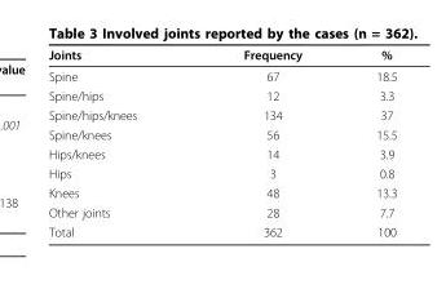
<table><thead><tr><td>Joints</td><td>Frequency</td><td>%</td></tr></thead><tbody><tr><td>Spine</td><td>67</td><td>18.5</td></tr><tr><td>Spine/hips</td><td>12</td><td>3.3</td></tr><tr><td>Spine/hips/knees</td><td>134</td><td>37</td></tr><tr><td>Spine/knees</td><td>56</td><td>15.5</td></tr><tr><td>Hips/knees</td><td>14</td><td>3.9</td></tr><tr><td>Hips</td><td>3</td><td>0.8</td></tr><tr><td>Knees</td><td>48</td><td>13.3</td></tr><tr><td>Other joints</td><td>28</td><td>7.7</td></tr><tr><td>Total</td><td>362</td><td>100</td></tr></tbody></table>